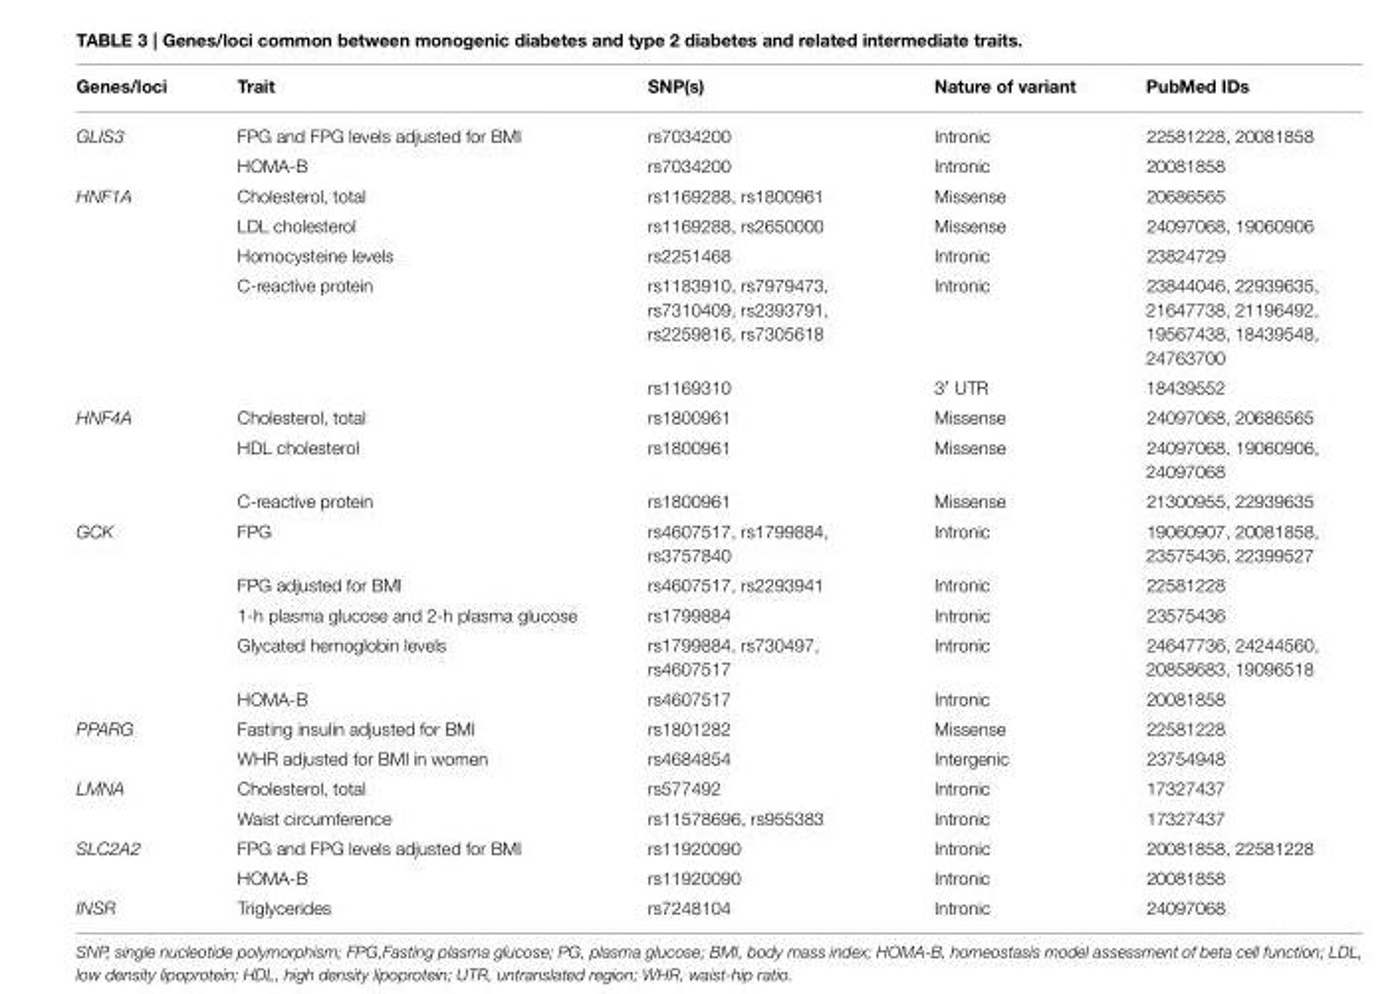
<table><thead><tr><td>Genes/loci</td><td>Trait</td><td>SNP(s)</td><td>Nature of variant</td><td>PubMed IDs</td></tr></thead><tbody><tr><td rowspan="2">GLIS3</td><td>FPG and FPG levels adjusted for BMI</td><td>rs7034200</td><td>Intronic</td><td>22581228, 20081858</td></tr><tr><td>HOMA-B</td><td>rs7034200</td><td>Intronic</td><td>20081858</td></tr><tr><td rowspan="5">HNF1A</td><td>Cholesterol, total</td><td>rs1169288, rs1800961</td><td>Missense</td><td>20686565</td></tr><tr><td>LDL cholesterol</td><td>rs1169288, rs2650000</td><td>Missense</td><td>24097068, 19060906</td></tr><tr><td>Homocysteine levels</td><td>rs2251468</td><td>Intronic</td><td>23824729</td></tr><tr><td>C-reactive protein</td><td>rs1183910, rs7979473, rs7310409, rs2393791, rs2259816, rs7305618</td><td>Intronic</td><td>23844046, 22939635, 21647738, 21196492, 19567438, 18439548, 24763700</td></tr><tr><td></td><td>rs1169310</td><td>3′ UTR</td><td>18439552</td></tr><tr><td rowspan="3">HNF4A</td><td>Cholesterol, total</td><td>rs1800961</td><td>Missense</td><td>24097068, 20686565</td></tr><tr><td>HDL cholesterol</td><td>rs1800961</td><td>Missense</td><td>24097068, 19060906, 24097068</td></tr><tr><td>C-reactive protein</td><td>rs1800961</td><td>Missense</td><td>21300955, 22939635</td></tr><tr><td rowspan="5">GCK</td><td>FPG</td><td>rs4607517, rs1799884, rs3757840</td><td>Intronic</td><td>19060907, 20081858, 23575436, 22399527</td></tr><tr><td>FPG adjusted for BMI</td><td>rs4607517, rs2293941</td><td>Intronic</td><td>22581228</td></tr><tr><td>1-h plasma glucose and 2-h plasma glucose</td><td>rs1799884</td><td>Intronic</td><td>23575436</td></tr><tr><td>Glycated hemoglobin levels</td><td>rs1799884, rs730497, rs4607517</td><td>Intronic</td><td>24647736, 24244560, 20858683, 19096518</td></tr><tr><td>HOMA-B</td><td>rs4607517</td><td>Intronic</td><td>20081858</td></tr><tr><td rowspan="2">PPARG</td><td>Fasting insulin adjusted for BMI</td><td>rs1801282</td><td>Missense</td><td>22581228</td></tr><tr><td>WHR adjusted for BMI in women</td><td>rs4684854</td><td>Intergenic</td><td>23754948</td></tr><tr><td rowspan="2">LMNA</td><td>Cholesterol, total</td><td>rs577492</td><td>Intronic</td><td>17327437</td></tr><tr><td>Waist circumference</td><td>rs11578696, rs955383</td><td>Intronic</td><td>17327437</td></tr><tr><td rowspan="2">SLC2A2</td><td>FPG and FPG levels adjusted for BMI</td><td>rs11920090</td><td>Intronic</td><td>20081858, 22581228</td></tr><tr><td>HOMA-B</td><td>rs11920090</td><td>Intronic</td><td>20081858</td></tr><tr><td>INSR</td><td>Triglycerides</td><td>rs7248104</td><td>Intronic</td><td>24097068</td></tr></tbody></table>